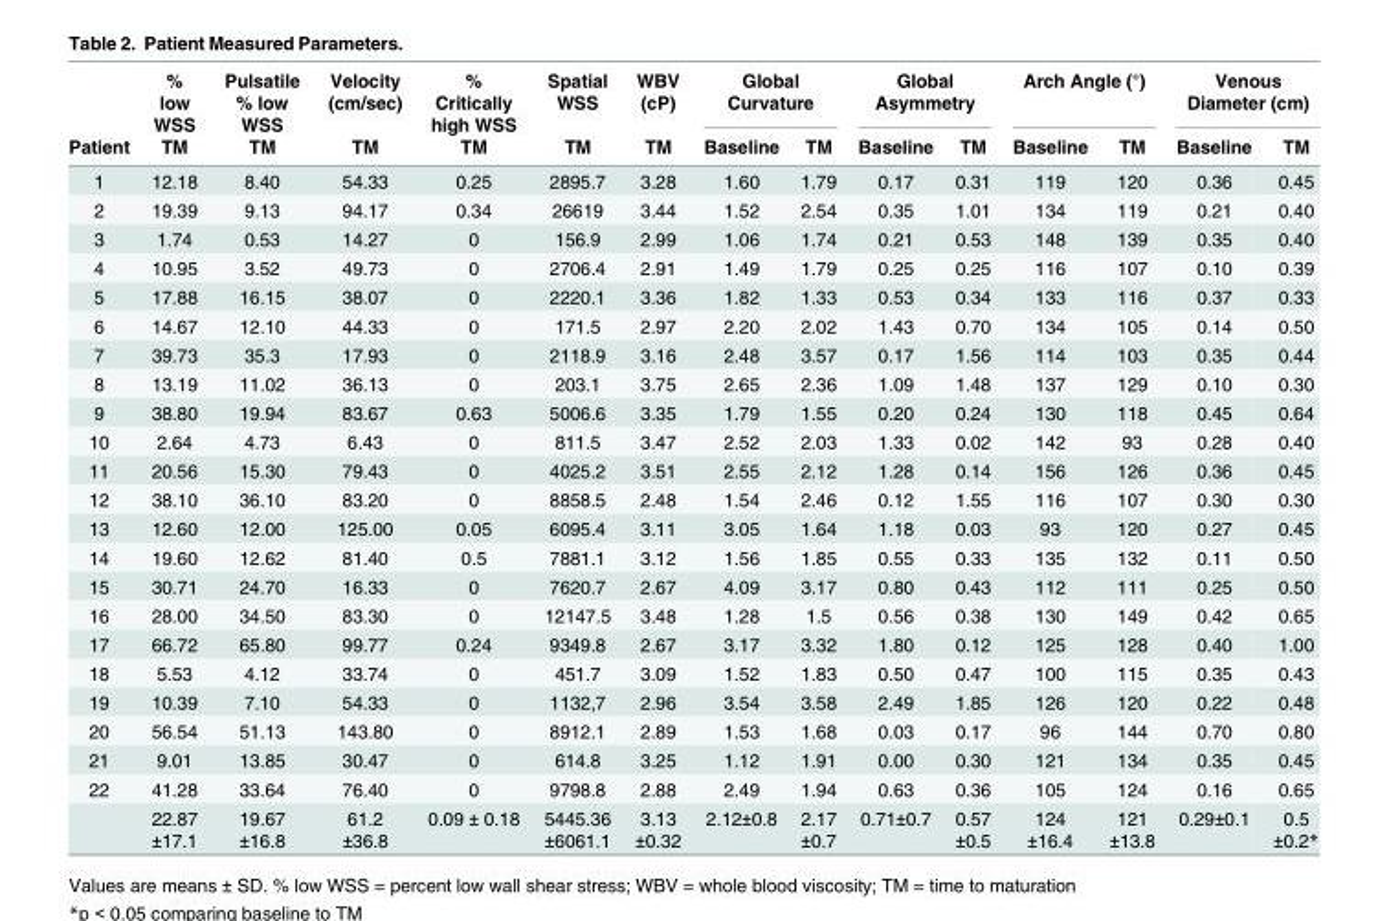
<table><thead><tr><td rowspan="2">Patient</td><td rowspan="2">% low WSS TM</td><td rowspan="2">Pulsatile % low WSS TM</td><td rowspan="2">Velocity (cm/sec) TM</td><td rowspan="2">% Critically high WSS TM</td><td rowspan="2">Spatial WSS TM</td><td rowspan="2">WBV (cP) TM</td><td colspan="2">Global Curvature</td><td colspan="2">Global Asymmetry</td><td colspan="2">Arch Angle (°)</td><td colspan="2">Venous Diameter (cm)</td></tr><tr><td>Baseline</td><td>TM</td><td>Baseline</td><td>TM</td><td>Baseline</td><td>TM</td><td>Baseline</td><td>TM</td></tr></thead><tbody><tr><td>1</td><td>12.18</td><td>8.40</td><td>54.33</td><td>0.25</td><td>2895.7</td><td>3.28</td><td>1.60</td><td>1.79</td><td>0.17</td><td>0.31</td><td>119</td><td>120</td><td>0.36</td><td>0.45</td></tr><tr><td>2</td><td>19.39</td><td>9.13</td><td>94.17</td><td>0.34</td><td>26619</td><td>3.44</td><td>1.52</td><td>2.54</td><td>0.35</td><td>1.01</td><td>134</td><td>119</td><td>0.21</td><td>0.40</td></tr><tr><td>3</td><td>1.74</td><td>0.53</td><td>14.27</td><td>0</td><td>156.9</td><td>2.99</td><td>1.06</td><td>1.74</td><td>0.21</td><td>0.53</td><td>148</td><td>139</td><td>0.35</td><td>0.40</td></tr><tr><td>4</td><td>10.95</td><td>3.52</td><td>49.73</td><td>0</td><td>2706.4</td><td>2.91</td><td>1.49</td><td>1.79</td><td>0.25</td><td>0.25</td><td>116</td><td>107</td><td>0.10</td><td>0.39</td></tr><tr><td>5</td><td>17.88</td><td>16.15</td><td>38.07</td><td>0</td><td>2220.1</td><td>3.36</td><td>1.82</td><td>1.33</td><td>0.53</td><td>0.34</td><td>133</td><td>116</td><td>0.37</td><td>0.33</td></tr><tr><td>6</td><td>14.67</td><td>12.10</td><td>44.33</td><td>0</td><td>171.5</td><td>2.97</td><td>2.20</td><td>2.02</td><td>1.43</td><td>0.70</td><td>134</td><td>105</td><td>0.14</td><td>0.50</td></tr><tr><td>7</td><td>39.73</td><td>35.3</td><td>17.93</td><td>0</td><td>2118.9</td><td>3.16</td><td>2.48</td><td>3.57</td><td>0.17</td><td>1.56</td><td>114</td><td>103</td><td>0.35</td><td>0.44</td></tr><tr><td>8</td><td>13.19</td><td>11.02</td><td>36.13</td><td>0</td><td>203.1</td><td>3.75</td><td>2.65</td><td>2.36</td><td>1.09</td><td>1.48</td><td>137</td><td>129</td><td>0.10</td><td>0.30</td></tr><tr><td>9</td><td>38.80</td><td>19.94</td><td>83.67</td><td>0.63</td><td>5006.6</td><td>3.35</td><td>1.79</td><td>1.55</td><td>0.20</td><td>0.24</td><td>130</td><td>118</td><td>0.45</td><td>0.64</td></tr><tr><td>10</td><td>2.64</td><td>4.73</td><td>6.43</td><td>0</td><td>811.5</td><td>3.47</td><td>2.52</td><td>2.03</td><td>1.33</td><td>0.02</td><td>142</td><td>93</td><td>0.28</td><td>0.40</td></tr><tr><td>11</td><td>20.56</td><td>15.30</td><td>79.43</td><td>0</td><td>4025.2</td><td>3.51</td><td>2.55</td><td>2.12</td><td>1.28</td><td>0.14</td><td>156</td><td>126</td><td>0.36</td><td>0.45</td></tr><tr><td>12</td><td>38.10</td><td>36.10</td><td>83.20</td><td>0</td><td>8858.5</td><td>2.48</td><td>1.54</td><td>2.46</td><td>0.12</td><td>1.55</td><td>116</td><td>107</td><td>0.30</td><td>0.30</td></tr><tr><td>13</td><td>12.60</td><td>12.00</td><td>125.00</td><td>0.05</td><td>6095.4</td><td>3.11</td><td>3.05</td><td>1.64</td><td>1.18</td><td>0.03</td><td>93</td><td>120</td><td>0.27</td><td>0.45</td></tr><tr><td>14</td><td>19.60</td><td>12.62</td><td>81.40</td><td>0.5</td><td>7881.1</td><td>3.12</td><td>1.56</td><td>1.85</td><td>0.55</td><td>0.33</td><td>135</td><td>132</td><td>0.11</td><td>0.50</td></tr><tr><td>15</td><td>30.71</td><td>24.70</td><td>16.33</td><td>0</td><td>7620.7</td><td>2.67</td><td>4.09</td><td>3.17</td><td>0.80</td><td>0.43</td><td>112</td><td>111</td><td>0.25</td><td>0.50</td></tr><tr><td>16</td><td>28.00</td><td>34.50</td><td>83.30</td><td>0</td><td>12147.5</td><td>3.48</td><td>1.28</td><td>1.5</td><td>0.56</td><td>0.38</td><td>130</td><td>149</td><td>0.42</td><td>0.65</td></tr><tr><td>17</td><td>66.72</td><td>65.80</td><td>99.77</td><td>0.24</td><td>9349.8</td><td>2.67</td><td>3.17</td><td>3.32</td><td>1.80</td><td>0.12</td><td>125</td><td>128</td><td>0.40</td><td>1.00</td></tr><tr><td>18</td><td>5.53</td><td>4.12</td><td>33.74</td><td>0</td><td>451.7</td><td>3.09</td><td>1.52</td><td>1.83</td><td>0.50</td><td>0.47</td><td>100</td><td>115</td><td>0.35</td><td>0.43</td></tr><tr><td>19</td><td>10.39</td><td>7.10</td><td>54.33</td><td>0</td><td>1132,7</td><td>2.96</td><td>3.54</td><td>3.58</td><td>2.49</td><td>1.85</td><td>126</td><td>120</td><td>0.22</td><td>0.48</td></tr><tr><td>20</td><td>56.54</td><td>51.13</td><td>143.80</td><td>0</td><td>8912.1</td><td>2.89</td><td>1.53</td><td>1.68</td><td>0.03</td><td>0.17</td><td>96</td><td>144</td><td>0.70</td><td>0.80</td></tr><tr><td>21</td><td>9.01</td><td>13.85</td><td>30.47</td><td>0</td><td>614.8</td><td>3.25</td><td>1.12</td><td>1.91</td><td>0.00</td><td>0.30</td><td>121</td><td>134</td><td>0.35</td><td>0.45</td></tr><tr><td rowspan="2">22</td><td>41.28</td><td>33.64</td><td>76.40</td><td>0</td><td>9798.8</td><td>2.88</td><td>2.49</td><td>1.94</td><td>0.63</td><td>0.36</td><td>105</td><td>124</td><td>0.16</td><td>0.65</td></tr><tr><td>22.87 ±17.1</td><td>19.67 ±16.8</td><td>61.2 ±36.8</td><td>0.09 ± 0.18</td><td>5445.36 ±6061.1</td><td>3.13 ±0.32</td><td>2.12±0.8</td><td>2.17 ±0.7</td><td>0.71±0.7</td><td>0.57 ±0.5</td><td>124 ±16.4</td><td>121 ±13.8</td><td>0.29±0.1</td><td>0.5 ±0.2*</td></tr></tbody></table>